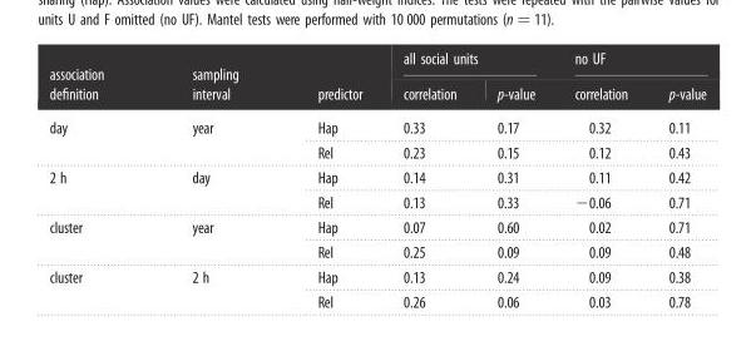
<table><thead><tr><td rowspan="2">association definition</td><td rowspan="2">sampling interval</td><td rowspan="2">predictor</td><td colspan="2">all social units</td><td colspan="2">no UF</td></tr><tr><td>correlation</td><td>p-value</td><td>correlation</td><td>p-value</td></tr></thead><tbody><tr><td rowspan="2">day</td><td rowspan="2">year</td><td>Hap</td><td>0.33</td><td>0.17</td><td>0.32</td><td>0.11</td></tr><tr><td>Rel</td><td>0.23</td><td>0.15</td><td>0.12</td><td>0.43</td></tr><tr><td rowspan="2">2 h</td><td rowspan="2">day</td><td>Hap</td><td>0.14</td><td>0.31</td><td>0.11</td><td>0.42</td></tr><tr><td>Rel</td><td>0.13</td><td>0.33</td><td>−0.06</td><td>0.71</td></tr><tr><td rowspan="2">cluster</td><td rowspan="2">year</td><td>Hap</td><td>0.07</td><td>0.60</td><td>0.02</td><td>0.71</td></tr><tr><td>Rel</td><td>0.25</td><td>0.09</td><td>0.09</td><td>0.48</td></tr><tr><td rowspan="2">cluster</td><td rowspan="2">2 h</td><td>Hap</td><td>0.13</td><td>0.24</td><td>0.09</td><td>0.38</td></tr><tr><td>Rel</td><td>0.26</td><td>0.06</td><td>0.03</td><td>0.78</td></tr></tbody></table>